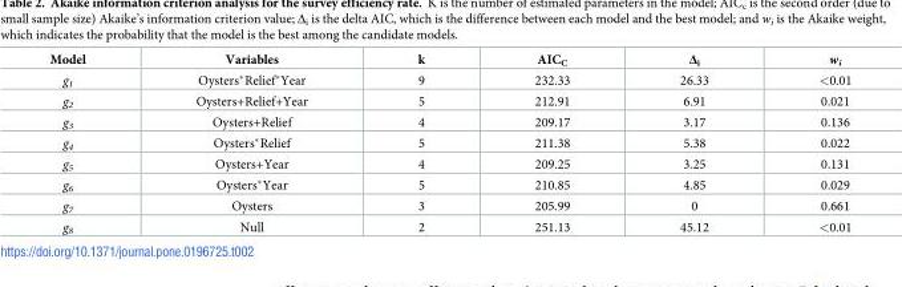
<table><thead><tr><td>Model</td><td>Variables</td><td>k</td><td>AIC<sub>C</sub></td><td>Δ<sub>i</sub></td><td>w<sub>i</sub></td></tr></thead><tbody><tr><td>g<sub>1</sub></td><td>Oysters*Relief*Year</td><td>9</td><td>232.33</td><td>26.33</td><td>&lt;0.01</td></tr><tr><td>g<sub>2</sub></td><td>Oysters+Relief+Year</td><td>5</td><td>212.91</td><td>6.91</td><td>0.021</td></tr><tr><td>g<sub>3</sub></td><td>Oysters+Relief</td><td>4</td><td>209.17</td><td>3.17</td><td>0.136</td></tr><tr><td>g<sub>4</sub></td><td>Oysters*Relief</td><td>5</td><td>211.38</td><td>5.38</td><td>0.022</td></tr><tr><td>g<sub>5</sub></td><td>Oysters+Year</td><td>4</td><td>209.25</td><td>3.25</td><td>0.131</td></tr><tr><td>g<sub>6</sub></td><td>Oysters*Year</td><td>5</td><td>210.85</td><td>4.85</td><td>0.029</td></tr><tr><td>g<sub>7</sub></td><td>Oysters</td><td>3</td><td>205.99</td><td>0</td><td>0.661</td></tr><tr><td>g<sub>8</sub></td><td>Null</td><td>2</td><td>251.13</td><td>45.12</td><td>&lt;0.01</td></tr></tbody></table>